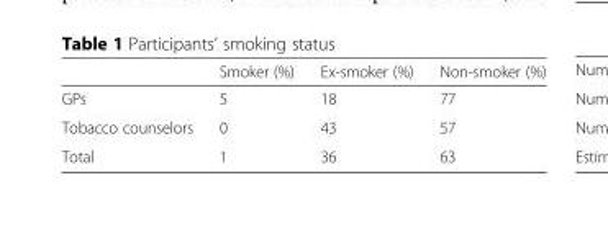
<table><thead><tr><td></td><td>Smoker (%)</td><td>Ex-smoker (%)</td><td>Non-smoker (%)</td></tr></thead><tbody><tr><td>GPs</td><td>5</td><td>18</td><td>77</td></tr><tr><td>Tobacco counselors</td><td>0</td><td>43</td><td>57</td></tr><tr><td>Total</td><td>1</td><td>36</td><td>63</td></tr></tbody></table>